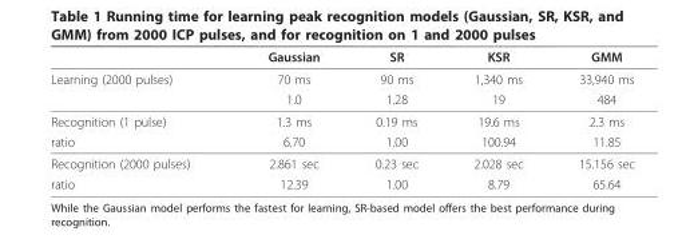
<table><thead><tr><td></td><td>Gaussian</td><td>SR</td><td>KSR</td><td>GMM</td></tr></thead><tbody><tr><td rowspan="2">Learning (2000 pulses)</td><td>70 ms</td><td>90 ms</td><td>1,340 ms</td><td>33,940 ms</td></tr><tr><td>1.0</td><td>1.28</td><td>19</td><td>484</td></tr><tr><td>Recognition (1 pulse)</td><td>1.3 ms</td><td>0.19 ms</td><td>19.6 ms</td><td>2.3 ms</td></tr><tr><td>ratio</td><td>6.70</td><td>1.00</td><td>100.94</td><td>11.85</td></tr><tr><td>Recognition (2000 pulses)</td><td>2.861 sec</td><td>0.23 sec</td><td>2.028 sec</td><td>15.156 sec</td></tr><tr><td>ratio</td><td>12.39</td><td>1.00</td><td>8.79</td><td>65.64</td></tr></tbody></table>